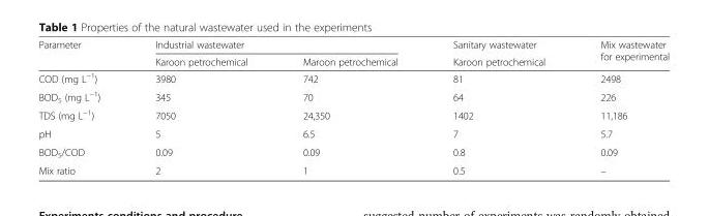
<table><thead><tr><td rowspan="2">Parameter</td><td colspan="2">Industrial wastewater</td><td rowspan="2">Sanitary wastewater Karoon petrochemical</td><td rowspan="2">Mix wastewater for experimental</td></tr><tr><td>Karoon petrochemical</td><td>Maroon petrochemical</td></tr></thead><tbody><tr><td>COD (mg L<sup>−1</sup>)</td><td>3980</td><td>742</td><td>81</td><td>2498</td></tr><tr><td>BOD<sub>5</sub> (mg L<sup>−1</sup>)</td><td>345</td><td>70</td><td>64</td><td>226</td></tr><tr><td>TDS (mg L<sup>−1</sup>)</td><td>7050</td><td>24,350</td><td>1402</td><td>11,186</td></tr><tr><td>pH</td><td>5</td><td>6.5</td><td>7</td><td>5.7</td></tr><tr><td>BOD<sub>5</sub>/COD</td><td>0.09</td><td>0.09</td><td>0.8</td><td>0.09</td></tr><tr><td>Mix ratio</td><td>2</td><td>1</td><td>0.5</td><td>–</td></tr></tbody></table>